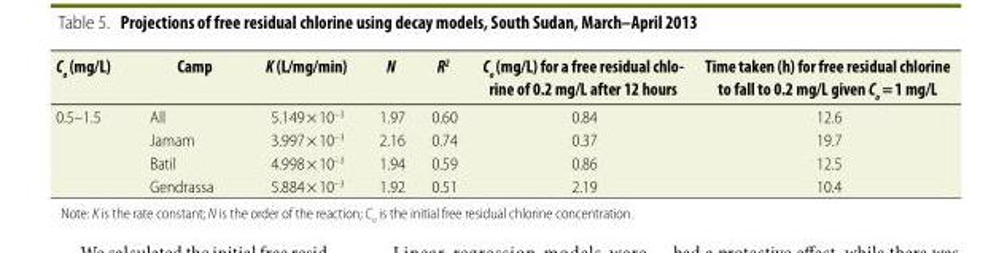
<table><thead><tr><td>C<sub>o</sub> (mg/L)</td><td>Camp</td><td>K (L/mg/min)</td><td>N</td><td>R<sup>2</sup></td><td>Co (mg/L) for a free residual chlo- rine of 0.2 mg/L after 12 hours</td><td>Time taken (h) for free residual chlorine to fall to 0.2 mg/L given C<sub>o</sub> = 1 mg/L</td></tr></thead><tbody><tr><td rowspan="4">0.5–1.5</td><td>All</td><td>5.149 × 10<sup>−3</sup></td><td>1.97</td><td>0.60</td><td>0.84</td><td>12.6</td></tr><tr><td>Jamam</td><td>3.997 × 10<sup>−3</sup></td><td>2.16</td><td>0.74</td><td>0.37</td><td>19.7</td></tr><tr><td>Batil</td><td>4.998 × 10<sup>−3</sup></td><td>1.94</td><td>0.59</td><td>0.86</td><td>12.5</td></tr><tr><td>Gendrassa</td><td>5.884 × 10<sup>−3</sup></td><td>1.92</td><td>0.51</td><td>2.19</td><td>10.4</td></tr></tbody></table>